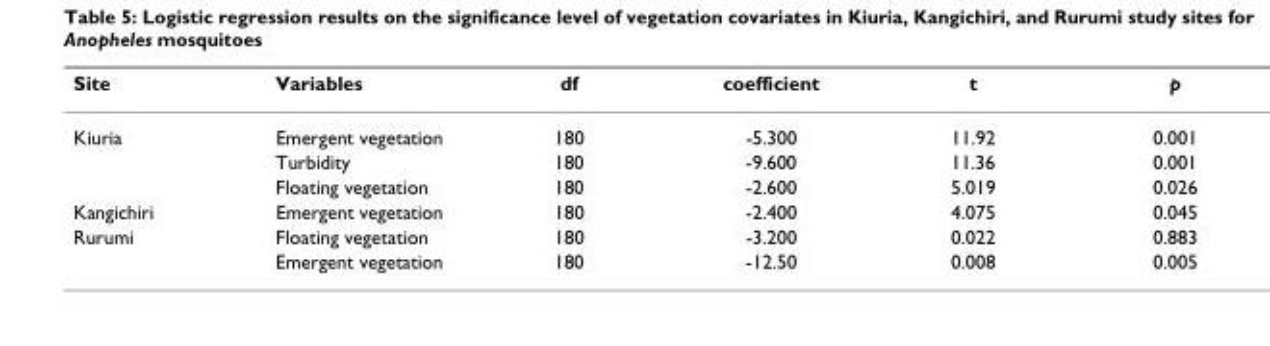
<table><thead><tr><td>Site</td><td>Variables</td><td>df</td><td>coefficient</td><td>t</td><td>p</td></tr></thead><tbody><tr><td rowspan="3">Kiuria</td><td>Emergent vegetation</td><td>180</td><td>-5.300</td><td>11.92</td><td>0.001</td></tr><tr><td>Turbidity</td><td>180</td><td>-9.600</td><td>11.36</td><td>0.001</td></tr><tr><td>Floating vegetation</td><td>180</td><td>-2.600</td><td>5.019</td><td>0.026</td></tr><tr><td>Kangichiri</td><td>Emergent vegetation</td><td>180</td><td>-2.400</td><td>4.075</td><td>0.045</td></tr><tr><td rowspan="2">Rurumi</td><td>Floating vegetation</td><td>180</td><td>-3.200</td><td>0.022</td><td>0.883</td></tr><tr><td>Emergent vegetation</td><td>180</td><td>-12.50</td><td>0.008</td><td>0.005</td></tr></tbody></table>